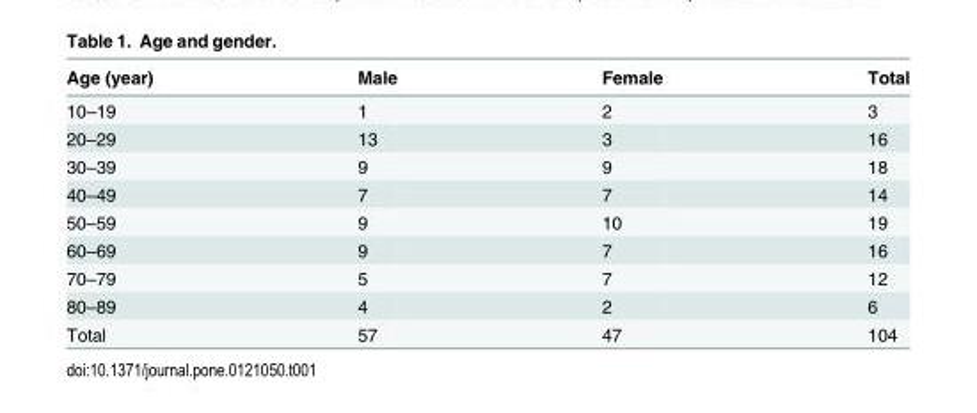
<table><thead><tr><td>Age (year)</td><td>Male</td><td>Female</td><td>Total</td></tr></thead><tbody><tr><td>10–19</td><td>1</td><td>2</td><td>3</td></tr><tr><td>20–29</td><td>13</td><td>3</td><td>16</td></tr><tr><td>30–39</td><td>9</td><td>9</td><td>18</td></tr><tr><td>40–49</td><td>7</td><td>7</td><td>14</td></tr><tr><td>50–59</td><td>9</td><td>10</td><td>19</td></tr><tr><td>60–69</td><td>9</td><td>7</td><td>16</td></tr><tr><td>70–79</td><td>5</td><td>7</td><td>12</td></tr><tr><td>80–89</td><td>4</td><td>2</td><td>6</td></tr><tr><td>Total</td><td>57</td><td>47</td><td>104</td></tr></tbody></table>